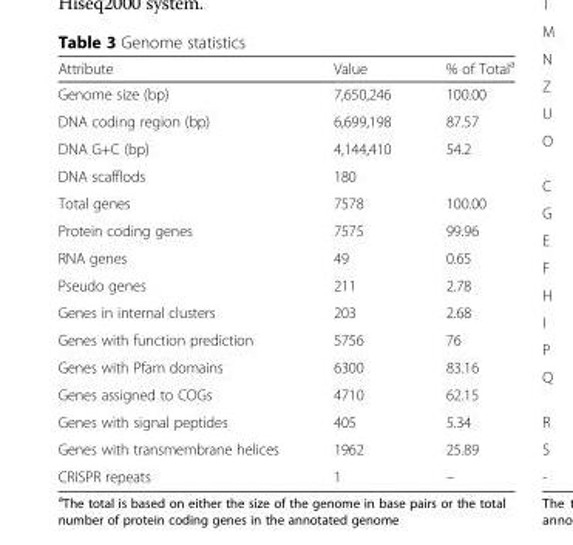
<table><thead><tr><td>Attribute</td><td>Value</td><td>% of Total<sup>a</sup></td></tr></thead><tbody><tr><td>Genome size (bp)</td><td>7,650,246</td><td>100.00</td></tr><tr><td>DNA coding region (bp)</td><td>6,699,198</td><td>87.57</td></tr><tr><td>DNA G+C (bp)</td><td>4,144,410</td><td>54.2</td></tr><tr><td>DNA scafflods</td><td>180</td><td></td></tr><tr><td>Total genes</td><td>7578</td><td>100.00</td></tr><tr><td>Protein coding genes</td><td>7575</td><td>99.96</td></tr><tr><td>RNA genes</td><td>49</td><td>0.65</td></tr><tr><td>Pseudo genes</td><td>211</td><td>2.78</td></tr><tr><td>Genes in internal clusters</td><td>203</td><td>2.68</td></tr><tr><td>Genes with function prediction</td><td>5756</td><td>76</td></tr><tr><td>Genes with Pfam domains</td><td>6300</td><td>83.16</td></tr><tr><td>Genes assigned to COGs</td><td>4710</td><td>62.15</td></tr><tr><td>Genes with signal peptides</td><td>405</td><td>5.34</td></tr><tr><td>Genes with transmembrane helices</td><td>1962</td><td>25.89</td></tr><tr><td>CRISPR repeats</td><td>1</td><td>–</td></tr></tbody></table>